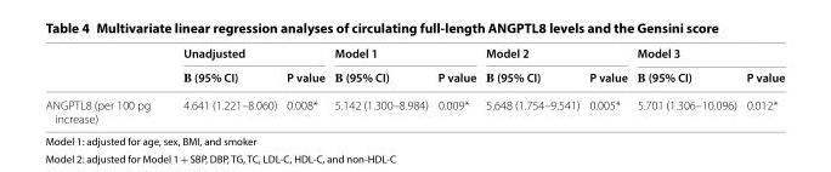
<table><thead><tr><td rowspan="2"></td><td colspan="2">Unadjusted</td><td colspan="2">Model 1</td><td colspan="2">Model 2</td><td colspan="2">Model 3</td></tr><tr><td>Β (95% CI)</td><td>P value</td><td>Β (95% CI)</td><td>P value</td><td>Β (95% CI)</td><td>P value</td><td>Β (95% CI)</td><td>P value</td></tr></thead><tbody><tr><td>ANGPTL8 (per 100 pg increase)</td><td>4.641 (1.221–8.060)</td><td>0.008*</td><td>5.142 (1.300–8.984)</td><td>0.009*</td><td>5.648 (1.754–9.541)</td><td>0.005*</td><td>5.701 (1.306–10.096)</td><td>0.012*</td></tr></tbody></table>